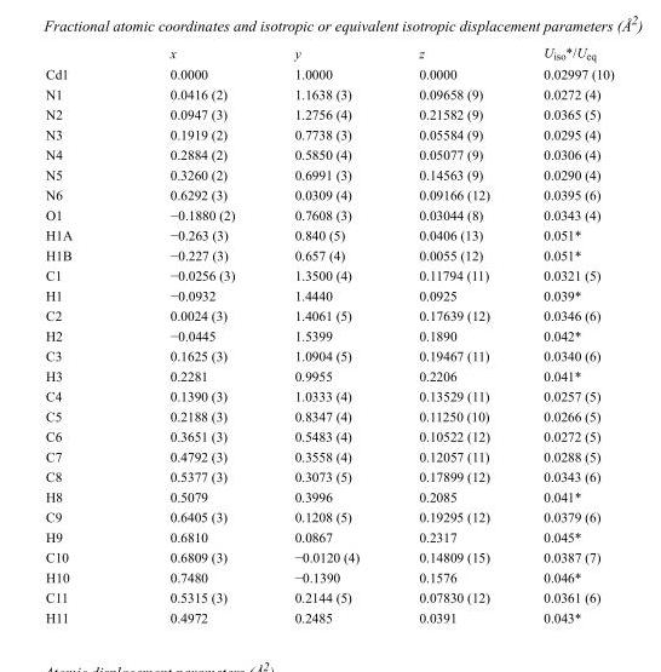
<table><thead><tr><td></td><td>x</td><td>y</td><td>z</td><td>U<sub>iso</sub>*/U<sub>eq</sub></td></tr></thead><tbody><tr><td>Cd1</td><td>0.0000</td><td>1.0000</td><td>0.0000</td><td>0.02997 (10)</td></tr><tr><td>N1</td><td>0.0416 (2)</td><td>1.1638 (3)</td><td>0.09658 (9)</td><td>0.0272 (4)</td></tr><tr><td>N2</td><td>0.0947 (3)</td><td>1.2756 (4)</td><td>0.21582 (9)</td><td>0.0365 (5)</td></tr><tr><td>N3</td><td>0.1919 (2)</td><td>0.7738 (3)</td><td>0.05584 (9)</td><td>0.0295 (4)</td></tr><tr><td>N4</td><td>0.2884 (2)</td><td>0.5850 (4)</td><td>0.05077 (9)</td><td>0.0306 (4)</td></tr><tr><td>N5</td><td>0.3260 (2)</td><td>0.6991 (3)</td><td>0.14563 (9)</td><td>0.0290 (4)</td></tr><tr><td>N6</td><td>0.6292 (3)</td><td>0.0309 (4)</td><td>0.09166 (12)</td><td>0.0395 (6)</td></tr><tr><td>O1</td><td>−0.1880 (2)</td><td>0.7608 (3)</td><td>0.03044 (8)</td><td>0.0343 (4)</td></tr><tr><td>H1A</td><td>−0.263 (3)</td><td>0.840 (5)</td><td>0.0406 (13)</td><td>0.051*</td></tr><tr><td>H1B</td><td>−0.227 (3)</td><td>0.657 (4)</td><td>0.0055 (12)</td><td>0.051*</td></tr><tr><td>C1</td><td>−0.0256 (3)</td><td>1.3500 (4)</td><td>0.11794 (11)</td><td>0.0321 (5)</td></tr><tr><td>H1</td><td>−0.0932</td><td>1.4440</td><td>0.0925</td><td>0.039*</td></tr><tr><td>C2</td><td>0.0024 (3)</td><td>1.4061 (5)</td><td>0.17639 (12)</td><td>0.0346 (6)</td></tr><tr><td>H2</td><td>−0.0445</td><td>1.5399</td><td>0.1890</td><td>0.042*</td></tr><tr><td>C3</td><td>0.1625 (3)</td><td>1.0904 (5)</td><td>0.19467 (11)</td><td>0.0340 (6)</td></tr><tr><td>H3</td><td>0.2281</td><td>0.9955</td><td>0.2206</td><td>0.041*</td></tr><tr><td>C4</td><td>0.1390 (3)</td><td>1.0333 (4)</td><td>0.13529 (11)</td><td>0.0257 (5)</td></tr><tr><td>C5</td><td>0.2188 (3)</td><td>0.8347 (4)</td><td>0.11250 (10)</td><td>0.0266 (5)</td></tr><tr><td>C6</td><td>0.3651 (3)</td><td>0.5483 (4)</td><td>0.10522 (12)</td><td>0.0272 (5)</td></tr><tr><td>C7</td><td>0.4792 (3)</td><td>0.3558 (4)</td><td>0.12057 (11)</td><td>0.0288 (5)</td></tr><tr><td>C8</td><td>0.5377 (3)</td><td>0.3073 (5)</td><td>0.17899 (12)</td><td>0.0343 (6)</td></tr><tr><td>H8</td><td>0.5079</td><td>0.3996</td><td>0.2085</td><td>0.041*</td></tr><tr><td>C9</td><td>0.6405 (3)</td><td>0.1208 (5)</td><td>0.19295 (12)</td><td>0.0379 (6)</td></tr><tr><td>H9</td><td>0.6810</td><td>0.0867</td><td>0.2317</td><td>0.045*</td></tr><tr><td>C10</td><td>0.6809 (3)</td><td>−0.0120 (4)</td><td>0.14809 (15)</td><td>0.0387 (7)</td></tr><tr><td>H10</td><td>0.7480</td><td>−0.1390</td><td>0.1576</td><td>0.046*</td></tr><tr><td>C11</td><td>0.5315 (3)</td><td>0.2144 (5)</td><td>0.07830 (12)</td><td>0.0361 (6)</td></tr><tr><td>H11</td><td>0.4972</td><td>0.2485</td><td>0.0391</td><td>0.043*</td></tr></tbody></table>